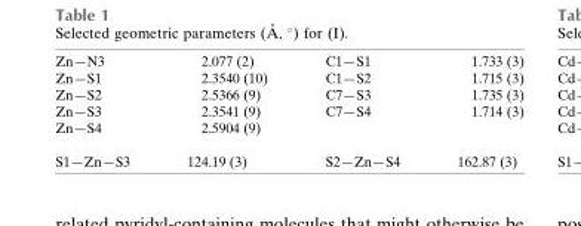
<table><tbody><tr><td>Zn—N3</td><td>2.077 (2)</td><td>C1—S1</td><td>1.733 (3)</td></tr><tr><td>Zn—S1</td><td>2.3540 (10)</td><td>C1—S2</td><td>1.715 (3)</td></tr><tr><td>Zn—S2</td><td>2.5366 (9)</td><td>C7—S3</td><td>1.735 (3)</td></tr><tr><td>Zn—S3</td><td>2.3541 (9)</td><td>C7—S4</td><td>1.714 (3)</td></tr><tr><td>Zn—S4</td><td>2.5904 (9)</td><td></td><td></td></tr><tr><td>S1—Zn—S3</td><td>124.19 (3)</td><td>S2—Zn—S4</td><td>162.87 (3)</td></tr></tbody></table>